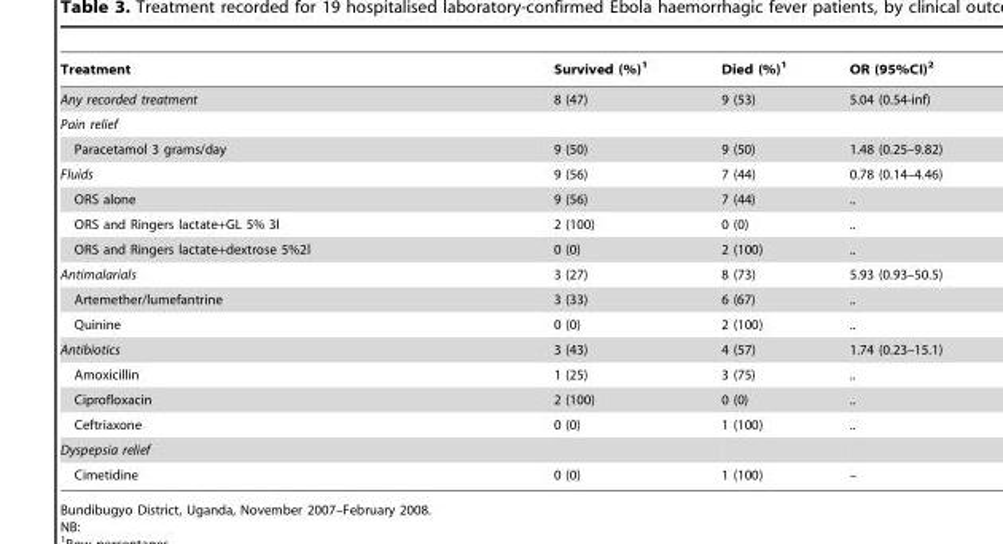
<table><thead><tr><td>Treatment</td><td>Survived (%)<sup>1</sup></td><td>Died (%)<sup>1</sup></td><td>OR (95%CI)<sup>2</sup></td></tr></thead><tbody><tr><td>Any recorded treatment</td><td>8 (47)</td><td>9 (53)</td><td>5.04 (0.54-inf)</td></tr><tr><td colspan="4">Pain relief</td></tr><tr><td>Paracetamol 3 grams/day</td><td>9 (50)</td><td>9 (50)</td><td>1.48 (0.25–9.82)</td></tr><tr><td>Fluids</td><td>9 (56)</td><td>7 (44)</td><td>0.78 (0.14–4.46)</td></tr><tr><td>ORS alone</td><td>9 (56)</td><td>7 (44)</td><td>..</td></tr><tr><td>ORS and Ringers lactate+GL 5% 3l</td><td>2 (100)</td><td>0 (0)</td><td>..</td></tr><tr><td>ORS and Ringers lactate+dextrose 5%2l</td><td>0 (0)</td><td>2 (100)</td><td>..</td></tr><tr><td>Antimalarials</td><td>3 (27)</td><td>8 (73)</td><td>5.93 (0.93–50.5)</td></tr><tr><td>Artemether/lumefantrine</td><td>3 (33)</td><td>6 (67)</td><td>..</td></tr><tr><td>Quinine</td><td>0 (0)</td><td>2 (100)</td><td>..</td></tr><tr><td>Antibiotics</td><td>3 (43)</td><td>4 (57)</td><td>1.74 (0.23–15.1)</td></tr><tr><td>Amoxicillin</td><td>1 (25)</td><td>3 (75)</td><td>..</td></tr><tr><td>Ciprofloxacin</td><td>2 (100)</td><td>0 (0)</td><td>..</td></tr><tr><td>Ceftriaxone</td><td>0 (0)</td><td>1 (100)</td><td>..</td></tr><tr><td colspan="4">Dyspepsia relief</td></tr><tr><td>Cimetidine</td><td>0 (0)</td><td>1 (100)</td><td>–</td></tr></tbody></table>